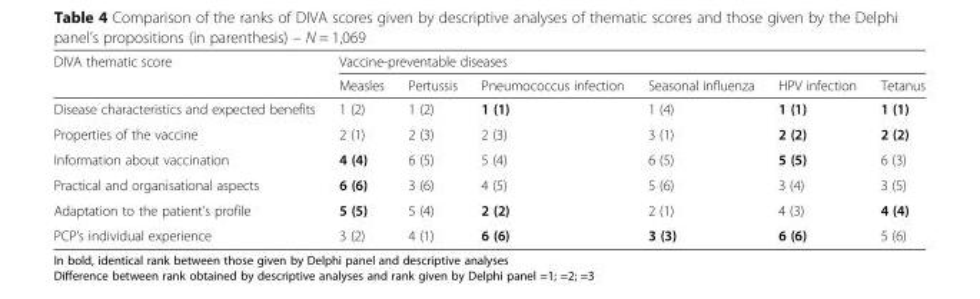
<table><thead><tr><td rowspan="2">DIVA thematic score</td><td colspan="6">Vaccine-preventable diseases</td></tr><tr><td>Measles</td><td>Pertussis</td><td>Pneumococcus infection</td><td>Seasonal influenza</td><td>HPV infection</td><td>Tetanus</td></tr></thead><tbody><tr><td>Disease characteristics and expected benefits</td><td>1 (2)</td><td>1 (2)</td><td>1 (1)</td><td>1 (4)</td><td>1 (1)</td><td>1 (1)</td></tr><tr><td>Properties of the vaccine</td><td>2 (1)</td><td>2 (3)</td><td>2 (3)</td><td>3 (1)</td><td>2 (2)</td><td>2 (2)</td></tr><tr><td>Information about vaccination</td><td>4 (4)</td><td>6 (5)</td><td>5 (4)</td><td>6 (5)</td><td>5 (5)</td><td>6 (3)</td></tr><tr><td>Practical and organisational aspects</td><td>6 (6)</td><td>3 (6)</td><td>4 (5)</td><td>5 (6)</td><td>3 (4)</td><td>3 (5)</td></tr><tr><td>Adaptation to the patient’s profile</td><td>5 (5)</td><td>5 (4)</td><td>2 (2)</td><td>2 (1)</td><td>4 (3)</td><td>4 (4)</td></tr><tr><td>PCP’s individual experience</td><td>3 (2)</td><td>4 (1)</td><td>6 (6)</td><td>3 (3)</td><td>6 (6)</td><td>5 (6)</td></tr></tbody></table>